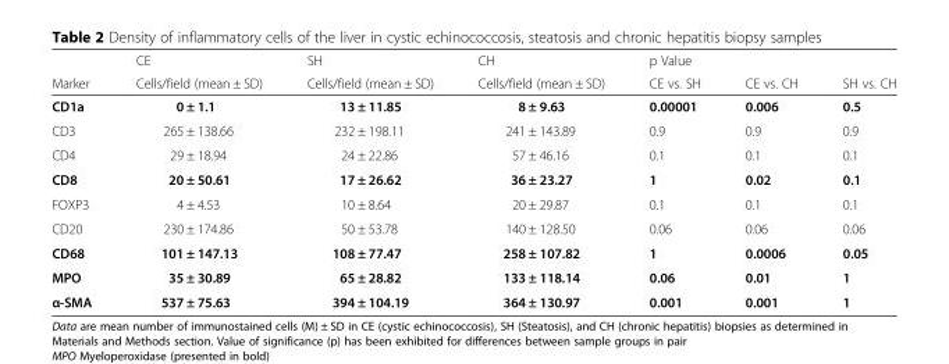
<table><thead><tr><td rowspan="2">Marker</td><td rowspan="2">CE Cells/field (mean ± SD)</td><td rowspan="2">SH Cells/field (mean ± SD)</td><td rowspan="2">CH Cells/field (mean ± SD)</td><td rowspan="2">p Value CE vs. SH</td><td rowspan="2">CE vs. CH</td><td rowspan="2">SH vs. CH</td></tr><tr></tr></thead><tbody><tr><td>CD1a</td><td>0 ± 1.1</td><td>13 ± 11.85</td><td>8 ± 9.63</td><td>0.00001</td><td>0.006</td><td>0.5</td></tr><tr><td>CD3</td><td>265 ± 138.66</td><td>232 ± 198.11</td><td>241 ± 143.89</td><td>0.9</td><td>0.9</td><td>0.9</td></tr><tr><td>CD4</td><td>29 ± 18.94</td><td>24 ± 22.86</td><td>57 ± 46.16</td><td>0.1</td><td>0.1</td><td>0.1</td></tr><tr><td>CD8</td><td>20 ± 50.61</td><td>17 ± 26.62</td><td>36 ± 23.27</td><td>1</td><td>0.02</td><td>0.1</td></tr><tr><td>FOXP3</td><td>4 ± 4.53</td><td>10 ± 8.64</td><td>20 ± 29.87</td><td>0.1</td><td>0.1</td><td>0.1</td></tr><tr><td>CD20</td><td>230 ± 174.86</td><td>50 ± 53.78</td><td>140 ± 128.50</td><td>0.06</td><td>0.06</td><td>0.06</td></tr><tr><td>CD68</td><td>101 ± 147.13</td><td>108 ± 77.47</td><td>258 ± 107.82</td><td>1</td><td>0.0006</td><td>0.05</td></tr><tr><td>MPO</td><td>35 ± 30.89</td><td>65 ± 28.82</td><td>133 ± 118.14</td><td>0.06</td><td>0.01</td><td>1</td></tr><tr><td>α-SMA</td><td>537 ± 75.63</td><td>394 ± 104.19</td><td>364 ± 130.97</td><td>0.001</td><td>0.001</td><td>1</td></tr></tbody></table>